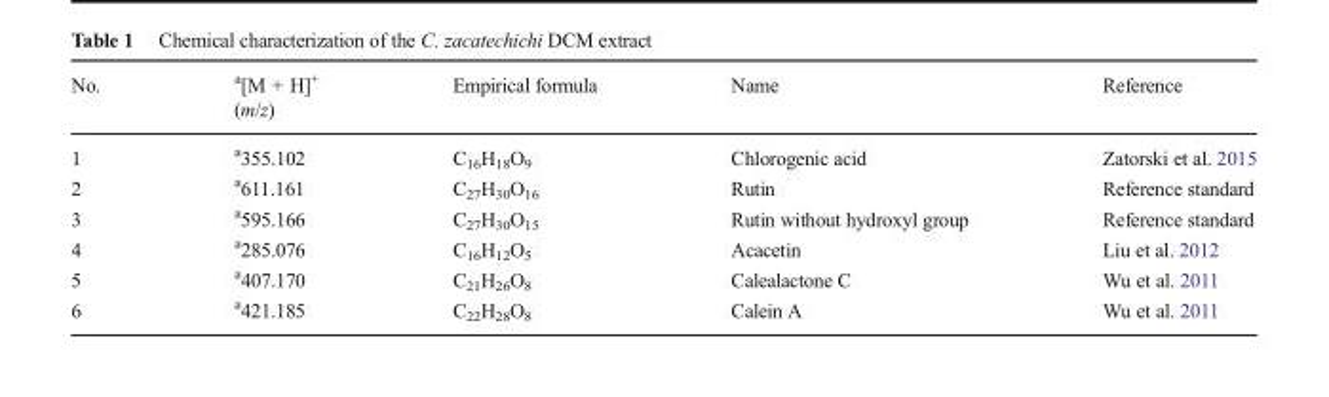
<table><thead><tr><td>No.</td><td><sup>a</sup>[M + H]<sup>+</sup> (m/z)</td><td>Empirical formula</td><td>Name</td><td>Reference</td></tr></thead><tbody><tr><td>1</td><td><sup>a</sup>355.102</td><td>C<sub>16</sub>H<sub>18</sub>O<sub>9</sub></td><td>Chlorogenic acid</td><td>Zatorski et al. 2015</td></tr><tr><td>2</td><td><sup>a</sup>611.161</td><td>C<sub>27</sub>H<sub>30</sub>O<sub>16</sub></td><td>Rutin</td><td>Reference standard</td></tr><tr><td>3</td><td><sup>a</sup>595.166</td><td>C<sub>27</sub>H<sub>30</sub>O<sub>15</sub></td><td>Rutin without hydroxyl group</td><td>Reference standard</td></tr><tr><td>4</td><td><sup>a</sup>285.076</td><td>C<sub>16</sub>H<sub>12</sub>O<sub>5</sub></td><td>Acacetin</td><td>Liu et al. 2012</td></tr><tr><td>5</td><td><sup>a</sup>407.170</td><td>C<sub>21</sub>H<sub>26</sub>O<sub>8</sub></td><td>Calealactone C</td><td>Wu et al. 2011</td></tr><tr><td>6</td><td><sup>a</sup>421.185</td><td>C<sub>22</sub>H<sub>28</sub>O<sub>8</sub></td><td>Calein A</td><td>Wu et al. 2011</td></tr></tbody></table>